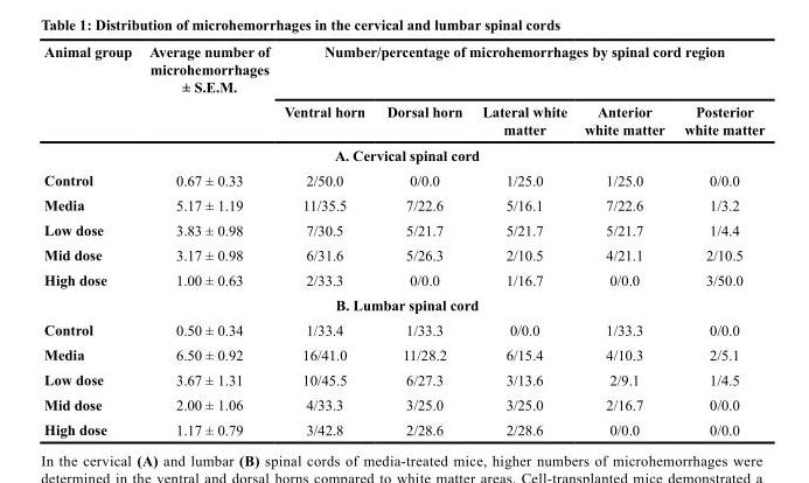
<table><thead><tr><td rowspan="2">Animal group</td><td rowspan="2">Average number of microhemorrhages ± S.E.M.</td><td colspan="5">Number/percentage of microhemorrhages by spinal cord region</td></tr><tr><td>Ventral horn</td><td>Dorsal horn</td><td>Lateral white matter</td><td>Anterior white matter</td><td>Posterior white matter</td></tr></thead><tbody><tr><td colspan="7">A. Cervical spinal cord</td></tr><tr><td>Control</td><td>0.67 ± 0.33</td><td>2/50.0</td><td>0/0.0</td><td>1/25.0</td><td>1/25.0</td><td>0/0.0</td></tr><tr><td>Media</td><td>5.17 ± 1.19</td><td>11/35.5</td><td>7/22.6</td><td>5/16.1</td><td>7/22.6</td><td>1/3.2</td></tr><tr><td>Low dose</td><td>3.83 ± 0.98</td><td>7/30.5</td><td>5/21.7</td><td>5/21.7</td><td>5/21.7</td><td>1/4.4</td></tr><tr><td>Mid dose</td><td>3.17 ± 0.98</td><td>6/31.6</td><td>5/26.3</td><td>2/10.5</td><td>4/21.1</td><td>2/10.5</td></tr><tr><td>High dose</td><td>1.00 ± 0.63</td><td>2/33.3</td><td>0/0.0</td><td>1/16.7</td><td>0/0.0</td><td>3/50.0</td></tr><tr><td colspan="7">B. Lumbar spinal cord</td></tr><tr><td>Control</td><td>0.50 ± 0.34</td><td>1/33.4</td><td>1/33.3</td><td>0/0.0</td><td>1/33.3</td><td>0/0.0</td></tr><tr><td>Media</td><td>6.50 ± 0.92</td><td>16/41.0</td><td>11/28.2</td><td>6/15.4</td><td>4/10.3</td><td>2/5.1</td></tr><tr><td>Low dose</td><td>3.67 ± 1.31</td><td>10/45.5</td><td>6/27.3</td><td>3/13.6</td><td>2/9.1</td><td>1/4.5</td></tr><tr><td>Mid dose</td><td>2.00 ± 1.06</td><td>4/33.3</td><td>3/25.0</td><td>3/25.0</td><td>2/16.7</td><td>0/0.0</td></tr><tr><td>High dose</td><td>1.17 ± 0.79</td><td>3/42.8</td><td>2/28.6</td><td>2/28.6</td><td>0/0.0</td><td>0/0.0</td></tr></tbody></table>